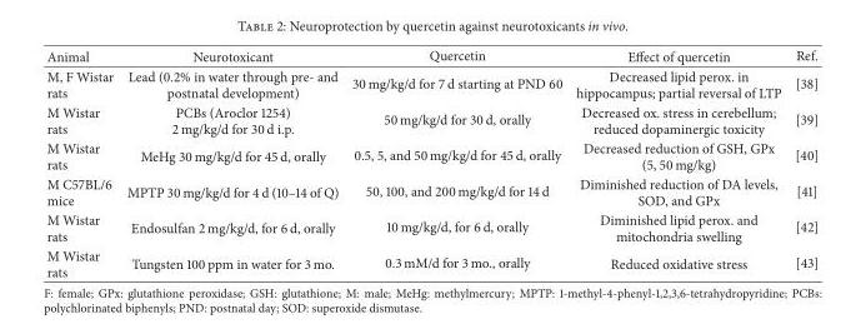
<table><thead><tr><td>Animal</td><td>Neurotoxicant</td><td>Quercetin</td><td>Effect of quercetin</td><td>Ref.</td></tr></thead><tbody><tr><td>M, F Wistar rats</td><td>Lead (0.2% in water through pre- and postnatal development)</td><td>30 mg/kg/d for 7 d starting at PND 60</td><td>Decreased lipid perox. in hippocampus; partial reversal of LTP</td><td>[38]</td></tr><tr><td>M Wistar rats</td><td>PCBs (Aroclor 1254) 2 mg/kg/d for 30 d i.p.</td><td>50 mg/kg/d for 30 d, orally</td><td>Decreased ox. stress in cerebellum; reduced dopaminergic toxicity</td><td>[39]</td></tr><tr><td>M Wistar rats</td><td>MeHg 30 mg/kg/d for 45 d, orally</td><td>0.5, 5, and 50 mg/kg/d for 45 d, orally</td><td>Decreased reduction of GSH, GPx (5, 50 mg/kg)</td><td>[40]</td></tr><tr><td>M C57BL/6 mice</td><td>MPTP 30 mg/kg/d for 4 d (10–14 of Q)</td><td>50, 100, and 200 mg/kg/d for 14 d</td><td>Diminished reduction of DA levels, SOD, and GPx</td><td>[41]</td></tr><tr><td>M Wistar rats</td><td>Endosulfan 2 mg/kg/d, for 6 d, orally</td><td>10 mg/kg/d, for 6 d, orally</td><td>Diminished lipid perox. and mitochondria swelling</td><td>[42]</td></tr><tr><td>M Wistar rats</td><td>Tungsten 100 ppm in water for 3 mo.</td><td>0.3 mM/d for 3 mo., orally</td><td>Reduced oxidative stress</td><td>[43]</td></tr></tbody></table>